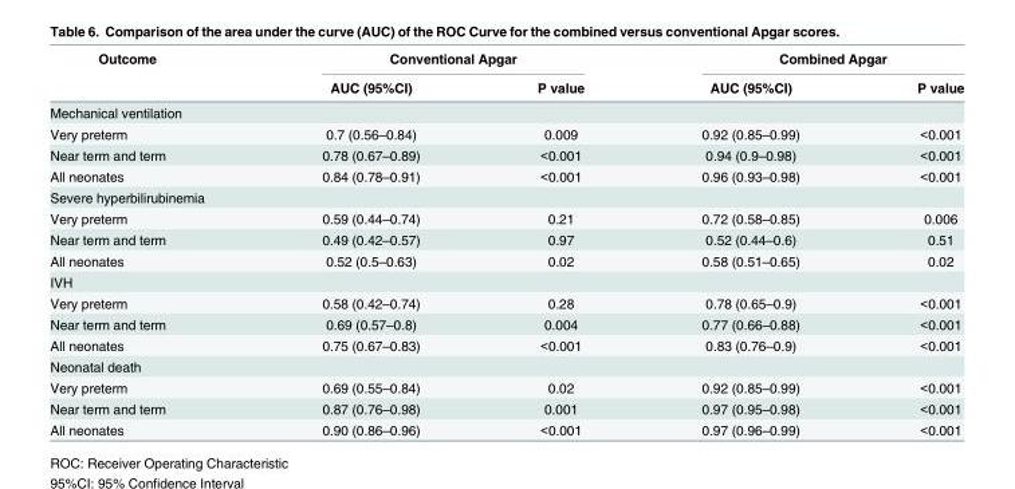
<table><thead><tr><td rowspan="2">Outcome</td><td colspan="2">Conventional Apgar</td><td colspan="2">Combined Apgar</td></tr><tr><td>AUC (95%CI)</td><td>P value</td><td>AUC (95%CI)</td><td>P value</td></tr></thead><tbody><tr><td colspan="5">Mechanical ventilation</td></tr><tr><td>Very preterm</td><td>0.7 (0.56–0.84)</td><td>0.009</td><td>0.92 (0.85–0.99)</td><td>&lt;0.001</td></tr><tr><td>Near term and term</td><td>0.78 (0.67–0.89)</td><td>&lt;0.001</td><td>0.94 (0.9–0.98)</td><td>&lt;0.001</td></tr><tr><td>All neonates</td><td>0.84 (0.78–0.91)</td><td>&lt;0.001</td><td>0.96 (0.93–0.98)</td><td>&lt;0.001</td></tr><tr><td colspan="5">Severe hyperbilirubinemia</td></tr><tr><td>Very preterm</td><td>0.59 (0.44–0.74)</td><td>0.21</td><td>0.72 (0.58–0.85)</td><td>0.006</td></tr><tr><td>Near term and term</td><td>0.49 (0.42–0.57)</td><td>0.97</td><td>0.52 (0.44–0.6)</td><td>0.51</td></tr><tr><td>All neonates</td><td>0.52 (0.5–0.63)</td><td>0.02</td><td>0.58 (0.51–0.65)</td><td>0.02</td></tr><tr><td colspan="5">IVH</td></tr><tr><td>Very preterm</td><td>0.58 (0.42–0.74)</td><td>0.28</td><td>0.78 (0.65–0.9)</td><td>&lt;0.001</td></tr><tr><td>Near term and term</td><td>0.69 (0.57–0.8)</td><td>0.004</td><td>0.77 (0.66–0.88)</td><td>&lt;0.001</td></tr><tr><td>All neonates</td><td>0.75 (0.67–0.83)</td><td>&lt;0.001</td><td>0.83 (0.76–0.9)</td><td>&lt;0.001</td></tr><tr><td colspan="5">Neonatal death</td></tr><tr><td>Very preterm</td><td>0.69 (0.55–0.84)</td><td>0.02</td><td>0.92 (0.85–0.99)</td><td>&lt;0.001</td></tr><tr><td>Near term and term</td><td>0.87 (0.76–0.98)</td><td>0.001</td><td>0.97 (0.95–0.98)</td><td>&lt;0.001</td></tr><tr><td>All neonates</td><td>0.90 (0.86–0.96)</td><td>&lt;0.001</td><td>0.97 (0.96–0.99)</td><td>&lt;0.001</td></tr></tbody></table>